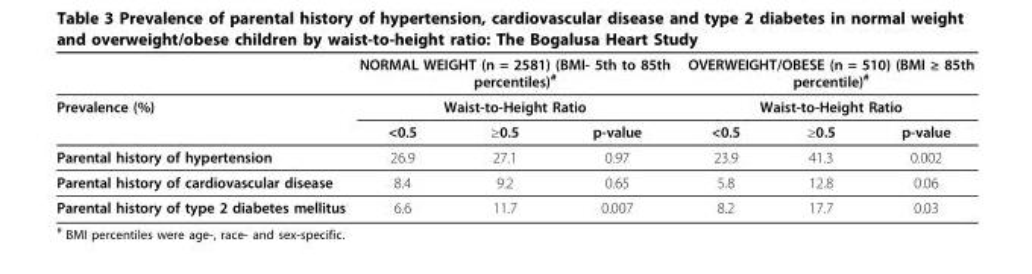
<table><thead><tr><td rowspan="3">Prevalence (%)</td><td rowspan="2" colspan="3">NORMAL WEIGHT (n = 2581) (BMI- 5th to 85th percentiles)<sup>#</sup> Waist-to-Height Ratio</td><td rowspan="2" colspan="3">OVERWEIGHT/OBESE (n = 510) (BMI ≥ 85th percentile)<sup>#</sup> Waist-to-Height Ratio</td></tr><tr></tr><tr><td>&lt;0.5</td><td>≥0.5</td><td>p-value</td><td>&lt;0.5</td><td>≥0.5</td><td>p-value</td></tr></thead><tbody><tr><td>Parental history of hypertension</td><td>26.9</td><td>27.1</td><td>0.97</td><td>23.9</td><td>41.3</td><td>0.002</td></tr><tr><td>Parental history of cardiovascular disease</td><td>8.4</td><td>9.2</td><td>0.65</td><td>5.8</td><td>12.8</td><td>0.06</td></tr><tr><td>Parental history of type 2 diabetes mellitus</td><td>6.6</td><td>11.7</td><td>0.007</td><td>8.2</td><td>17.7</td><td>0.03</td></tr></tbody></table>